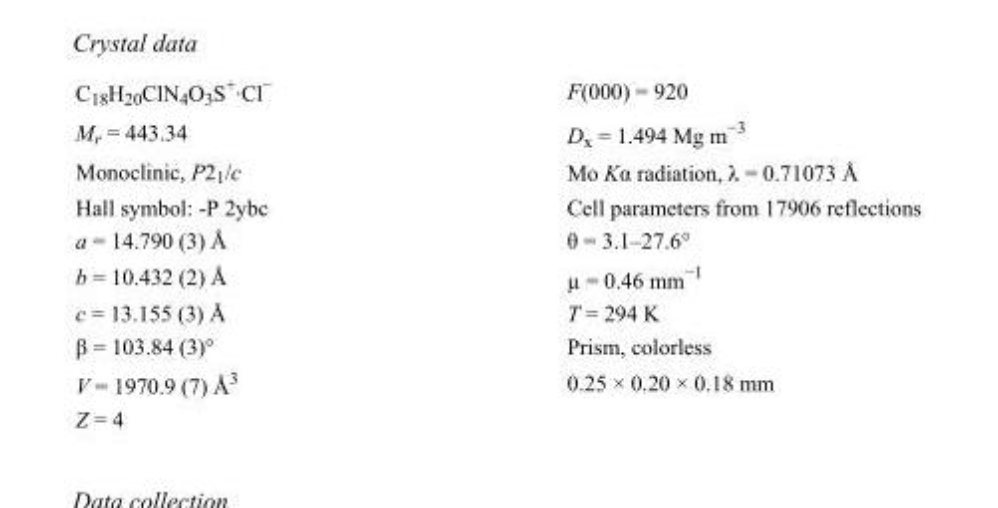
<table><tbody><tr><td>C<sub>18</sub>H<sub>20</sub>ClN<sub>4</sub>O<sub>3</sub>S<sup>+</sup>·Cl<sup>−</sup></td><td>F(000) = 920</td></tr><tr><td>M<sub>r</sub> = 443.34</td><td>D<sub>x</sub> = 1.494 Mg m<sup>−3</sup></td></tr><tr><td>Monoclinic, P2<sub>1</sub>/c</td><td>Mo Kα radiation, λ = 0.71073 Å</td></tr><tr><td>Hall symbol: -P 2ybc</td><td>Cell parameters from 17906 reflections</td></tr><tr><td>a = 14.790 (3) Å</td><td>θ = 3.1–27.6°</td></tr><tr><td>b = 10.432 (2) Å</td><td>µ = 0.46 mm<sup>−1</sup></td></tr><tr><td>c = 13.155 (3) Å</td><td>T = 294 K</td></tr><tr><td>β = 103.84 (3)°</td><td>Prism, colorless</td></tr><tr><td>V = 1970.9 (7) Å<sup>3</sup></td><td>0.25 × 0.20 × 0.18 mm</td></tr><tr><td>Z = 4</td><td></td></tr></tbody></table>